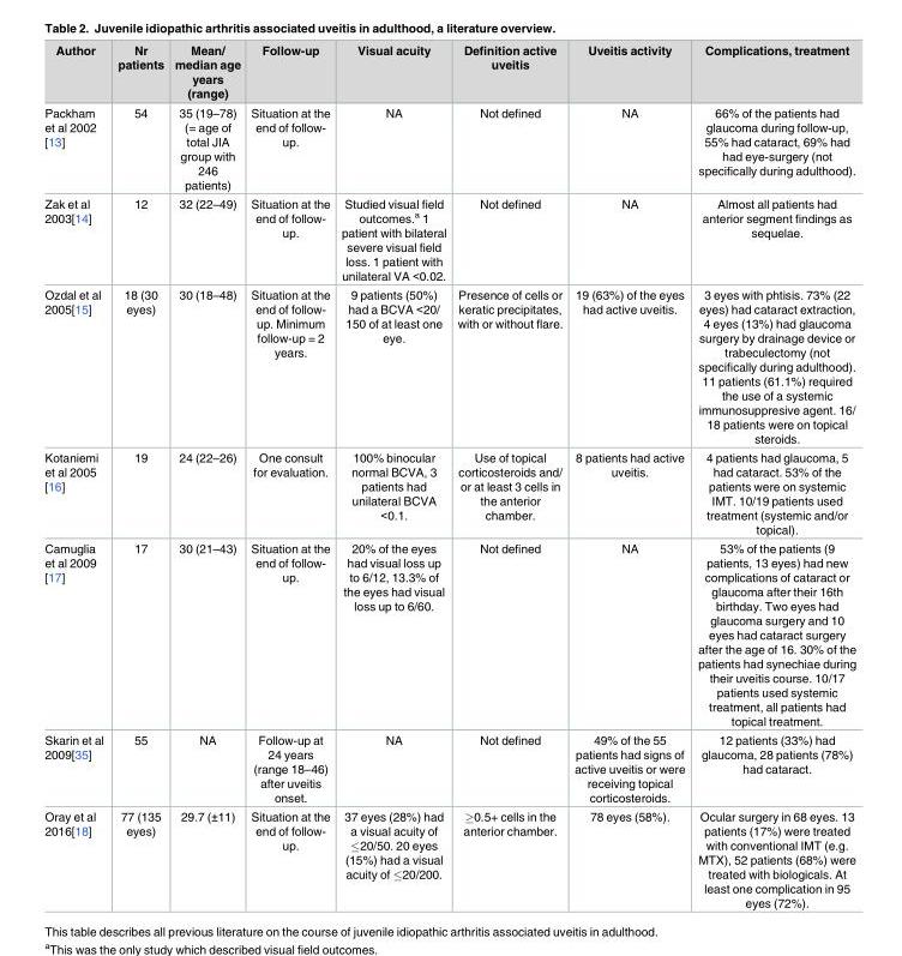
<table><thead><tr><td>Author</td><td>Nr patients</td><td>Mean/ median age years (range)</td><td>Follow-up</td><td>Visual acuity</td><td>Definition active uveitis</td><td>Uveitis activity</td><td>Complications, treatment</td></tr></thead><tbody><tr><td>Packham et al 2002 [13]</td><td>54</td><td>35 (19–78) (= age of total JIA group with 246 patients)</td><td>Situation at the end of follow- up.</td><td>NA</td><td>Not defined</td><td>NA</td><td>66% of the patients had glaucoma during follow-up, 55% had cataract, 69% had had eye-surgery (not specifically during adulthood).</td></tr><tr><td>Zak et al 2003[14]</td><td>12</td><td>32 (22–49)</td><td>Situation at the end of follow- up.</td><td>Studied visual field outcomes.<sup>a</sup> 1 patient with bilateral severe visual field loss. 1 patient with unilateral VA &lt;0.02.</td><td>Not defined</td><td>NA</td><td>Almost all patients had anterior segment findings as sequelae.</td></tr><tr><td>Ozdal et al 2005[15]</td><td>18 (30 eyes)</td><td>30 (18–48)</td><td>Situation at the end of follow- up. Minimum follow-up = 2 years.</td><td>9 patients (50%) had a BCVA &lt;20/ 150 of at least one eye.</td><td>Presence of cells or keratic precipitates, with or without flare.</td><td>19 (63%) of the eyes had active uveitis.</td><td>3 eyes with phtisis. 73% (22 eyes) had cataract extraction, 4 eyes (13%) had glaucoma surgery by drainage device or trabeculectomy (not specifically during adulthood). 11 patients (61.1%) required the use of a systemic immunosuppresive agent. 16/ 18 patients were on topical steroids.</td></tr><tr><td>Kotaniemi et al 2005 [16]</td><td>19</td><td>24 (22–26)</td><td>One consult for evaluation.</td><td>100% binocular normal BCVA, 3 patients had unilateral BCVA &lt;0.1.</td><td>Use of topical corticosteroids and/ or at least 3 cells in the anterior chamber.</td><td>8 patients had active uveitis.</td><td>4 patients had glaucoma, 5 had cataract. 53% of the patients were on systemic IMT. 10/19 patients used treatment (systemic and/or topical).</td></tr><tr><td>Camuglia et al 2009 [17]</td><td>17</td><td>30 (21–43)</td><td>Situation at the end of follow- up.</td><td>20% of the eyes had visual loss up to 6/12, 13.3% of the eyes had visual loss up to 6/60.</td><td>Not defined</td><td>NA</td><td>53% of the patients (9 patients, 13 eyes) had new complications of cataract or glaucoma after their 16th birthday. Two eyes had glaucoma surgery and 10 eyes had cataract surgery after the age of 16. 30% of the patients had synechiae during their uveitis course. 10/17 patients used systemic treatment, all patients had topical treatment.</td></tr><tr><td>Skarin et al 2009[35]</td><td>55</td><td>NA</td><td>Follow-up at 24 years (range 18–46) after uveitis onset.</td><td>NA</td><td>Not defined</td><td>49% of the 55 patients had signs of active uveitis or were receiving topical corticosteroids.</td><td>12 patients (33%) had glaucoma, 28 patients (78%) had cataract.</td></tr><tr><td>Oray et al 2016[18]</td><td>77 (135 eyes)</td><td>29.7 (±11)</td><td>Situation at the end of follow- up.</td><td>37 eyes (28%) had a visual acuity of ≤20/50. 20 eyes (15%) had a visual acuity of ≤20/200.</td><td>≥0.5+ cells in the anterior chamber.</td><td>78 eyes (58%).</td><td>Ocular surgery in 68 eyes. 13 patients (17%) were treated with conventional IMT (e.g. MTX), 52 patients (68%) were treated with biologicals. At least one complication in 95 eyes (72%).</td></tr></tbody></table>